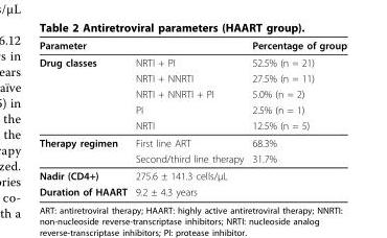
<table><thead><tr><td colspan="2">Parameter</td><td rowspan="2">Percentage of group 52.5% (n = 21)</td></tr><tr><td>Drug classes</td><td>NRTI + PI</td></tr></thead><tbody><tr><td></td><td>NRTI + NNRTI</td><td>27.5% (n = 11)</td></tr><tr><td></td><td>NRTI + NNRTI + PI</td><td>5.0% (n = 2)</td></tr><tr><td></td><td>PI</td><td>2.5% (n = 1)</td></tr><tr><td></td><td>NRTI</td><td>12.5% (n = 5)</td></tr><tr><td rowspan="2">Therapy regimen</td><td>First line ART</td><td>68.3%</td></tr><tr><td>Second/third line therapy</td><td>31.7%</td></tr><tr><td>Nadir (CD4+)</td><td colspan="2">275.6 ± 141.3 cells/μL</td></tr><tr><td>Duration of HAART</td><td colspan="2">9.2 ± 4.3 years</td></tr></tbody></table>